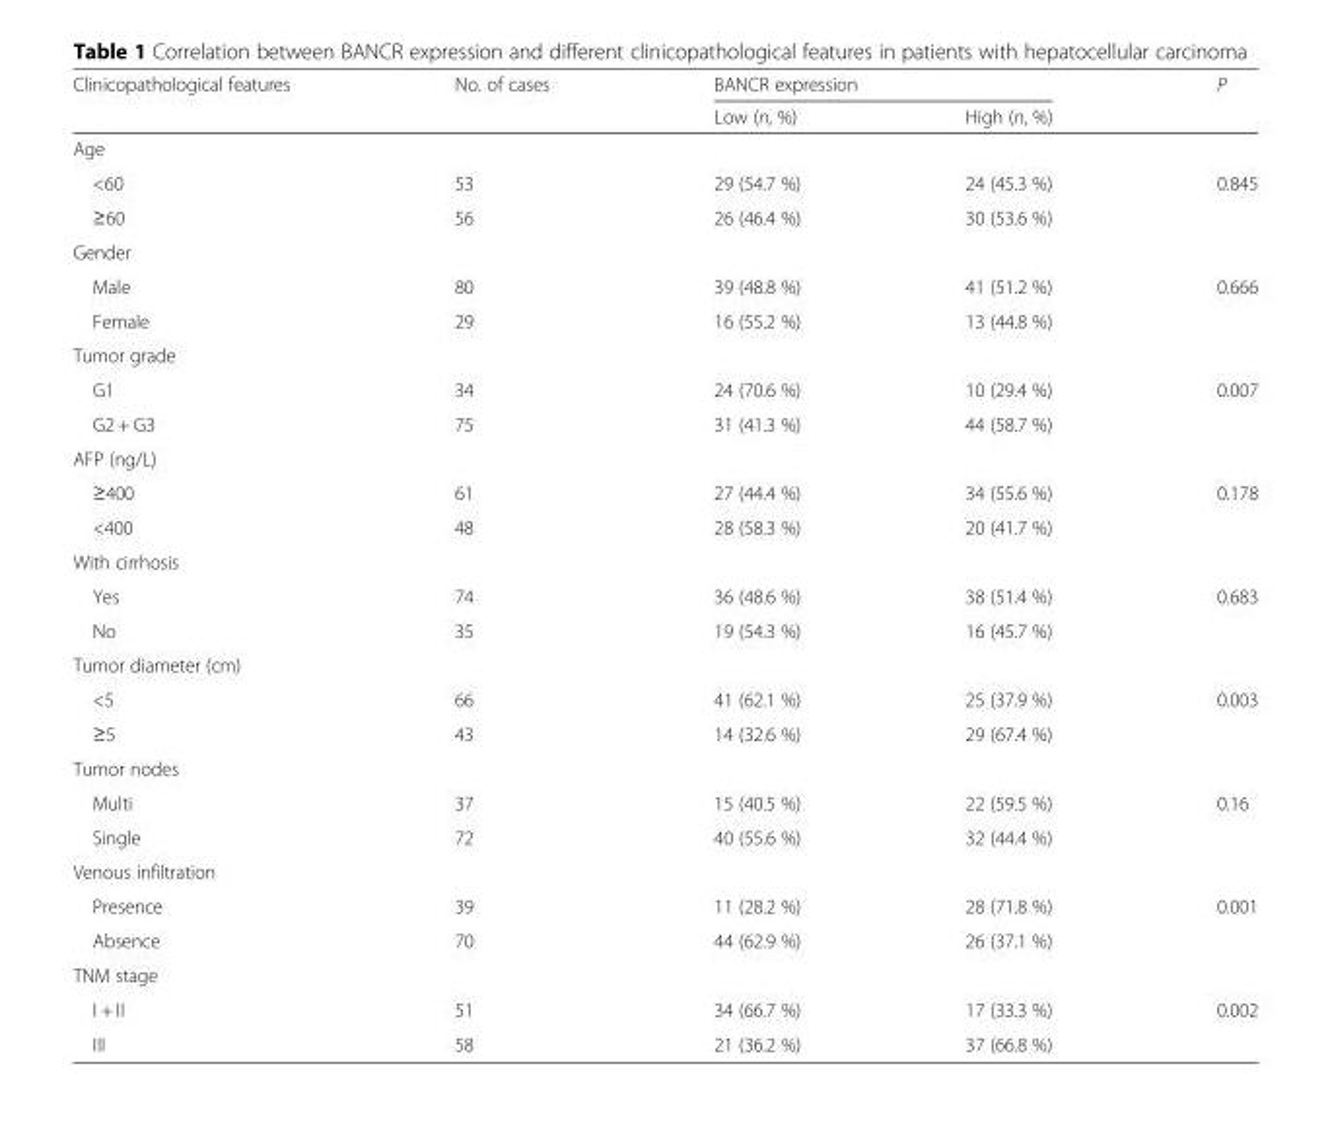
<table><thead><tr><td rowspan="2">Clinicopathological features</td><td rowspan="2">No. of cases</td><td colspan="2">BANCR expression</td><td rowspan="2">P</td></tr><tr><td>Low (n, %)</td><td>High (n, %)</td></tr></thead><tbody><tr><td colspan="5">Age</td></tr><tr><td>&lt;60</td><td>53</td><td>29 (54.7 %)</td><td>24 (45.3 %)</td><td>0.845</td></tr><tr><td>≥60</td><td>56</td><td>26 (46.4 %)</td><td>30 (53.6 %)</td><td></td></tr><tr><td colspan="5">Gender</td></tr><tr><td>Male</td><td>80</td><td>39 (48.8 %)</td><td>41 (51.2 %)</td><td>0.666</td></tr><tr><td>Female</td><td>29</td><td>16 (55.2 %)</td><td>13 (44.8 %)</td><td></td></tr><tr><td colspan="5">Tumor grade</td></tr><tr><td>G1</td><td>34</td><td>24 (70.6 %)</td><td>10 (29.4 %)</td><td>0.007</td></tr><tr><td>G2 + G3</td><td>75</td><td>31 (41.3 %)</td><td>44 (58.7 %)</td><td></td></tr><tr><td colspan="5">AFP (ng/L)</td></tr><tr><td>≥400</td><td>61</td><td>27 (44.4 %)</td><td>34 (55.6 %)</td><td>0.178</td></tr><tr><td>&lt;400</td><td>48</td><td>28 (58.3 %)</td><td>20 (41.7 %)</td><td></td></tr><tr><td colspan="5">With cirrhosis</td></tr><tr><td>Yes</td><td>74</td><td>36 (48.6 %)</td><td>38 (51.4 %)</td><td>0.683</td></tr><tr><td>No</td><td>35</td><td>19 (54.3 %)</td><td>16 (45.7 %)</td><td></td></tr><tr><td colspan="5">Tumor diameter (cm)</td></tr><tr><td>&lt;5</td><td>66</td><td>41 (62.1 %)</td><td>25 (37.9 %)</td><td>0.003</td></tr><tr><td>≥5</td><td>43</td><td>14 (32.6 %)</td><td>29 (67.4 %)</td><td></td></tr><tr><td colspan="5">Tumor nodes</td></tr><tr><td>Multi</td><td>37</td><td>15 (40.5 %)</td><td>22 (59.5 %)</td><td>0.16</td></tr><tr><td>Single</td><td>72</td><td>40 (55.6 %)</td><td>32 (44.4 %)</td><td></td></tr><tr><td colspan="5">Venous infiltration</td></tr><tr><td>Presence</td><td>39</td><td>11 (28.2 %)</td><td>28 (71.8 %)</td><td>0.001</td></tr><tr><td>Absence</td><td>70</td><td>44 (62.9 %)</td><td>26 (37.1 %)</td><td></td></tr><tr><td colspan="5">TNM stage</td></tr><tr><td>I + II</td><td>51</td><td>34 (66.7 %)</td><td>17 (33.3 %)</td><td>0.002</td></tr><tr><td>III</td><td>58</td><td>21 (36.2 %)</td><td>37 (66.8 %)</td><td></td></tr></tbody></table>